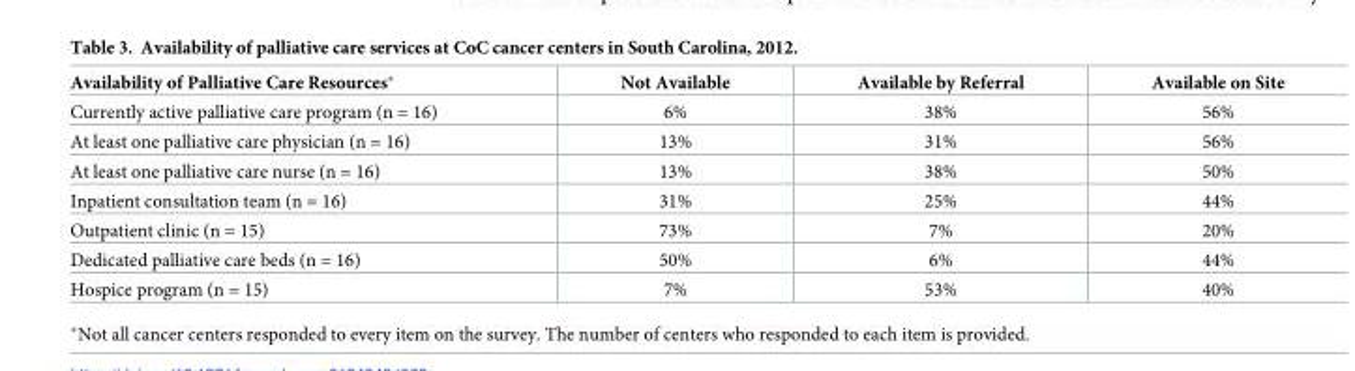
<table><thead><tr><td>Availability of Palliative Care Resources*</td><td>Not Available</td><td>Available by Referral</td><td>Available on Site</td></tr></thead><tbody><tr><td>Currently active palliative care program (n = 16)</td><td>6%</td><td>38%</td><td>56%</td></tr><tr><td>At least one palliative care physician (n = 16)</td><td>13%</td><td>31%</td><td>56%</td></tr><tr><td>At least one palliative care nurse (n = 16)</td><td>13%</td><td>38%</td><td>50%</td></tr><tr><td>Inpatient consultation team (n = 16)</td><td>31%</td><td>25%</td><td>44%</td></tr><tr><td>Outpatient clinic (n = 15)</td><td>73%</td><td>7%</td><td>20%</td></tr><tr><td>Dedicated palliative care beds (n = 16)</td><td>50%</td><td>6%</td><td>44%</td></tr><tr><td>Hospice program (n = 15)</td><td>7%</td><td>53%</td><td>40%</td></tr></tbody></table>